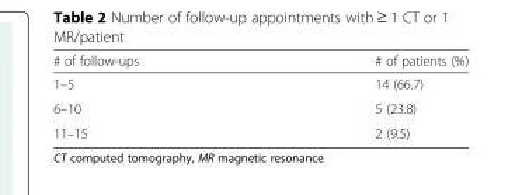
<table><thead><tr><td># of follow-ups</td><td># of patients (%)</td></tr></thead><tbody><tr><td>1–5</td><td>14 (66.7)</td></tr><tr><td>6–10</td><td>5 (23.8)</td></tr><tr><td>11–15</td><td>2 (9.5)</td></tr></tbody></table>